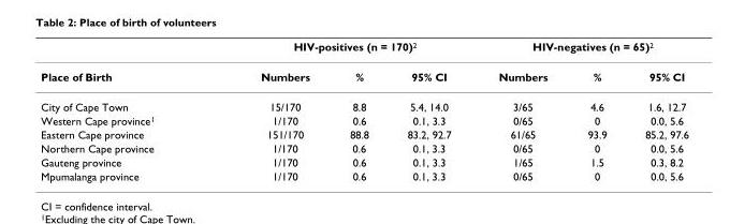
<table><thead><tr><td rowspan="2">Place of Birth</td><td colspan="3">HIV-positives (n = 170)<sup>2</sup></td><td colspan="3">HIV-negatives (n = 65)<sup>2</sup></td></tr><tr><td>Numbers</td><td>%</td><td>95% CI</td><td>Numbers</td><td>%</td><td>95% CI</td></tr></thead><tbody><tr><td>City of Cape Town</td><td>15/170</td><td>8.8</td><td>5.4, 14.0</td><td>3/65</td><td>4.6</td><td>1.6, 12.7</td></tr><tr><td>Western Cape province<sup>1</sup></td><td>1/170</td><td>0.6</td><td>0.1, 3.3</td><td>0/65</td><td>0</td><td>0.0, 5.6</td></tr><tr><td>Eastern Cape province</td><td>151/170</td><td>88.8</td><td>83.2, 92.7</td><td>61/65</td><td>93.9</td><td>85.2, 97.6</td></tr><tr><td>Northern Cape province</td><td>1/170</td><td>0.6</td><td>0.1, 3.3</td><td>0/65</td><td>0</td><td>0.0, 5.6</td></tr><tr><td>Gauteng province</td><td>1/170</td><td>0.6</td><td>0.1, 3.3</td><td>1/65</td><td>1.5</td><td>0.3, 8.2</td></tr><tr><td>Mpumalanga province</td><td>1/170</td><td>0.6</td><td>0.1, 3.3</td><td>0/65</td><td>0</td><td>0.0, 5.6</td></tr></tbody></table>